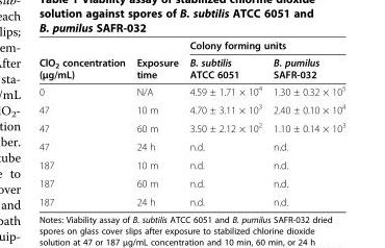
<table><thead><tr><td rowspan="2">ClO<sub>2</sub> concentration (μg/mL)</td><td rowspan="2">Exposure time</td><td colspan="2">Colony forming units</td></tr><tr><td>B. subtilis ATCC 6051</td><td>B. pumilus SAFR-032</td></tr></thead><tbody><tr><td>0</td><td>N/A</td><td>4.59 ± 1.71 × 10<sup>4</sup></td><td>1.30 ± 0.32 × 10<sup>5</sup></td></tr><tr><td>47</td><td>10 m</td><td>4.70 ± 3.11 × 10<sup>3</sup></td><td>2.40 ± 0.10 × 10<sup>4</sup></td></tr><tr><td>47</td><td>60 m</td><td>3.50 ± 2.12 × 10<sup>2</sup></td><td>1.10 ± 0.14 × 10<sup>3</sup></td></tr><tr><td>47</td><td>24 h</td><td>n.d.</td><td>n.d.</td></tr><tr><td>187</td><td>10 m</td><td>n.d.</td><td>n.d.</td></tr><tr><td>187</td><td>60 m</td><td>n.d.</td><td>n.d.</td></tr><tr><td>187</td><td>24 h</td><td>n.d.</td><td>n.d.</td></tr></tbody></table>